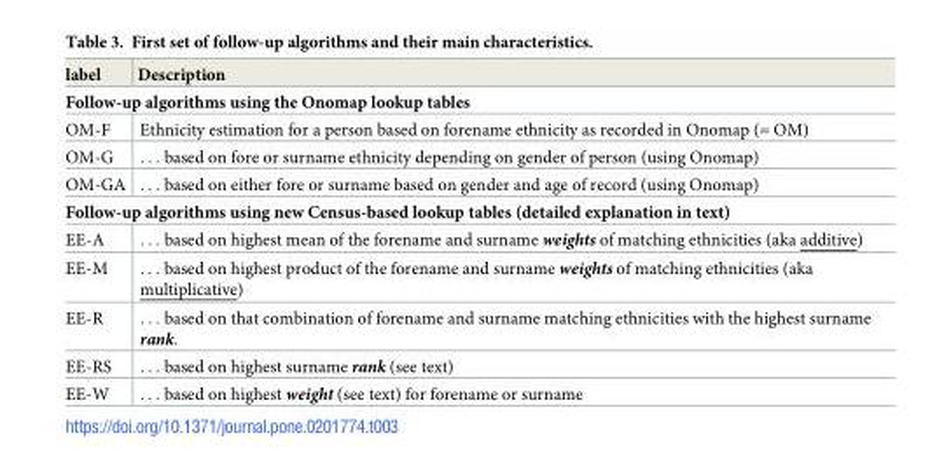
<table><thead><tr><td>label</td><td>Description</td></tr></thead><tbody><tr><td colspan="2">Follow-up algorithms using the Onomap lookup tables</td></tr><tr><td>OM-F</td><td>Ethnicity estimation for a person based on forename ethnicity as recorded in Onomap (= OM)</td></tr><tr><td>OM-G</td><td>. . . based on fore or surname ethnicity depending on gender of person (using Onomap)</td></tr><tr><td>OM-GA</td><td>. . . based on either fore or surname based on gender and age of record (using Onomap)</td></tr><tr><td colspan="2">Follow-up algorithms using new Census-based lookup tables (detailed explanation in text)</td></tr><tr><td>EE-A</td><td>. . . based on highest mean of the forename and surname weights of matching ethnicities (aka additive)</td></tr><tr><td>EE-M</td><td>. . . based on highest product of the forename and surname weights of matching ethnicities (aka multiplicative)</td></tr><tr><td>EE-R</td><td>. . . based on that combination of forename and surname matching ethnicities with the highest surname rank.</td></tr><tr><td>EE-RS</td><td>. . . based on highest surname rank (see text)</td></tr><tr><td>EE-W</td><td>. . . based on highest weight (see text) for forename or surname</td></tr></tbody></table>